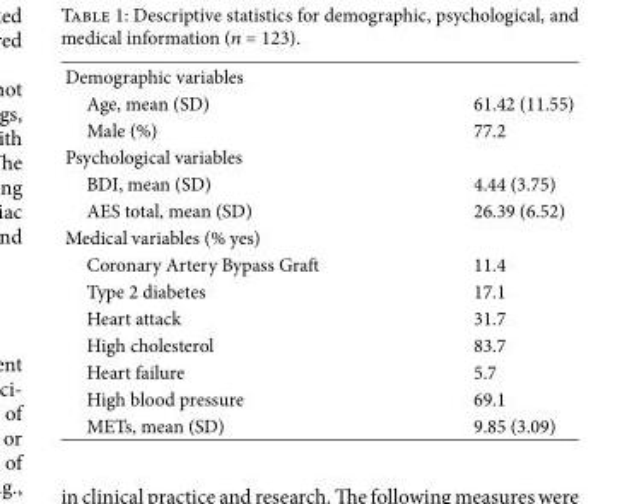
<table><tbody><tr><td colspan="2">Demographic variables</td></tr><tr><td>Age, mean (SD)</td><td>61.42 (11.55)</td></tr><tr><td>Male (%)</td><td>77.2</td></tr><tr><td colspan="2">Psychological variables</td></tr><tr><td>BDI, mean (SD)</td><td>4.44 (3.75)</td></tr><tr><td>AES total, mean (SD)</td><td>26.39 (6.52)</td></tr><tr><td colspan="2">Medical variables (% yes)</td></tr><tr><td>Coronary Artery Bypass Gra</td><td>11.4</td></tr><tr><td>Type 2 diabetes</td><td>17.1</td></tr><tr><td>Heart attack</td><td>31.7</td></tr><tr><td>High cholesterol</td><td>83.7</td></tr><tr><td>Heart failure</td><td>5.7</td></tr><tr><td>High blood pressure</td><td>69.1</td></tr><tr><td>METs, mean (SD)</td><td>9.85 (3.09)</td></tr></tbody></table>